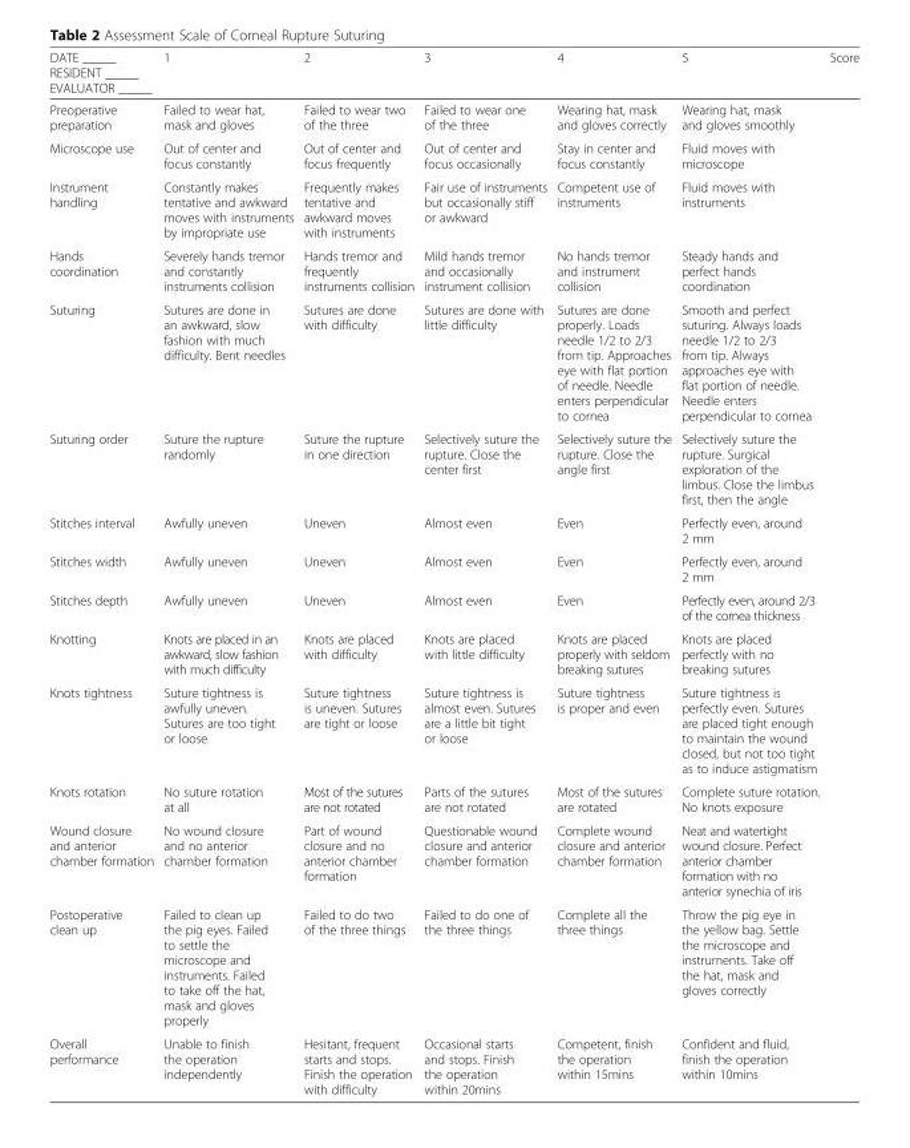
<table><thead><tr><td>DATE _____ RESIDENT _____ EVALUATOR _____</td><td>1</td><td>2</td><td>3</td><td>4</td><td>5</td><td>Score</td></tr></thead><tbody><tr><td>Preoperative preparation</td><td>Failed to wear hat, mask and gloves</td><td>Failed to wear two of the three</td><td>Failed to wear one of the three</td><td>Wearing hat, mask and gloves correctly</td><td>Wearing hat, mask and gloves smoothly</td><td></td></tr><tr><td>Microscope use</td><td>Out of center and focus constantly</td><td>Out of center and focus frequently</td><td>Out of center and focus occasionally</td><td>Stay in center and focus constantly</td><td>Fluid moves with microscope</td><td></td></tr><tr><td>Instrument handling</td><td>Constantly makes tentative and awkward moves with instruments by impropriate use</td><td>Frequently makes tentative and awkward moves with instruments</td><td>Fair use of instruments but occasionally stiff or awkward</td><td>Competent use of instruments</td><td>Fluid moves with instruments</td><td></td></tr><tr><td>Hands coordination</td><td>Severely hands tremor and constantly instruments collision</td><td>Hands tremor and frequently instruments collision</td><td>Mild hands tremor and occasionally instrument collision</td><td>No hands tremor and instrument collision</td><td>Steady hands and perfect hands coordination</td><td></td></tr><tr><td>Suturing</td><td>Sutures are done in an awkward, slow fashion with much difficulty. Bent needles</td><td>Sutures are done with difficulty</td><td>Sutures are done with little difficulty</td><td>Sutures are done properly. Loads needle 1/2 to 2/3 from tip. Approaches eye with flat portion of needle. Needle enters perpendicular to cornea</td><td>Smooth and perfect suturing. Always loads needle 1/2 to 2/3 from tip. Always approaches eye with flat portion of needle. Needle enters perpendicular to cornea</td><td></td></tr><tr><td>Suturing order</td><td>Suture the rupture randomly</td><td>Suture the rupture in one direction</td><td>Selectively suture the rupture. Close the center first</td><td>Selectively suture the rupture. Close the angle first</td><td>Selectively suture the rupture. Surgical exploration of the limbus. Close the limbus first, then the angle</td><td></td></tr><tr><td>Stitches interval</td><td>Awfully uneven</td><td>Uneven</td><td>Almost even</td><td>Even</td><td>Perfectly even, around 2 mm</td><td></td></tr><tr><td>Stitches width</td><td>Awfully uneven</td><td>Uneven</td><td>Almost even</td><td>Even</td><td>Perfectly even, around 2 mm</td><td></td></tr><tr><td>Stitches depth</td><td>Awfully uneven</td><td>Uneven</td><td>Almost even</td><td>Even</td><td>Perfectly even, around 2/3 of the cornea thickness</td><td></td></tr><tr><td>Knotting</td><td>Knots are placed in an awkward, slow fashion with much difficulty</td><td>Knots are placed with difficulty</td><td>Knots are placed with little difficulty</td><td>Knots are placed properly with seldom breaking sutures</td><td>Knots are placed perfectly with no breaking sutures</td><td></td></tr><tr><td>Knots tightness</td><td>Suture tightness is awfully uneven. Sutures are too tight or loose</td><td>Suture tightness is uneven. Sutures are tight or loose</td><td>Suture tightness is almost even. Sutures are a little bit tight or loose</td><td>Suture tightness is proper and even</td><td>Suture tightness is perfectly even. Sutures are placed tight enough to maintain the wound closed, but not too tight as to induce astigmatism</td><td></td></tr><tr><td>Knots rotation</td><td>No suture rotation at all</td><td>Most of the sutures are not rotated</td><td>Parts of the sutures are not rotated</td><td>Most of the sutures are rotated</td><td>Complete suture rotation. No knots exposure</td><td></td></tr><tr><td>Wound closure and anterior chamber formation</td><td>No wound closure and no anterior chamber formation</td><td>Part of wound closure and no anterior chamber formation</td><td>Questionable wound closure and anterior chamber formation</td><td>Complete wound closure and anterior chamber formation</td><td>Neat and watertight wound closure. Perfect anterior chamber formation with no anterior synechia of iris</td><td></td></tr><tr><td>Postoperative clean up</td><td>Failed to clean up the pig eyes. Failed to settle the microscope and instruments. Failed to take off the hat, mask and gloves properly</td><td>Failed to do two of the three things</td><td>Failed to do one of the three things</td><td>Complete all the three things</td><td>Throw the pig eye in the yellow bag. Settle the microscope and instruments. Take off the hat, mask and gloves correctly</td><td></td></tr><tr><td>Overall performance</td><td>Unable to finish the operation independently</td><td>Hesitant, frequent starts and stops. Finish the operation with difficulty</td><td>Occasional starts and stops. Finish the operation within 20mins</td><td>Competent, finish the operation within 15mins</td><td>Confident and fluid, finish the operation within 10mins</td><td></td></tr></tbody></table>